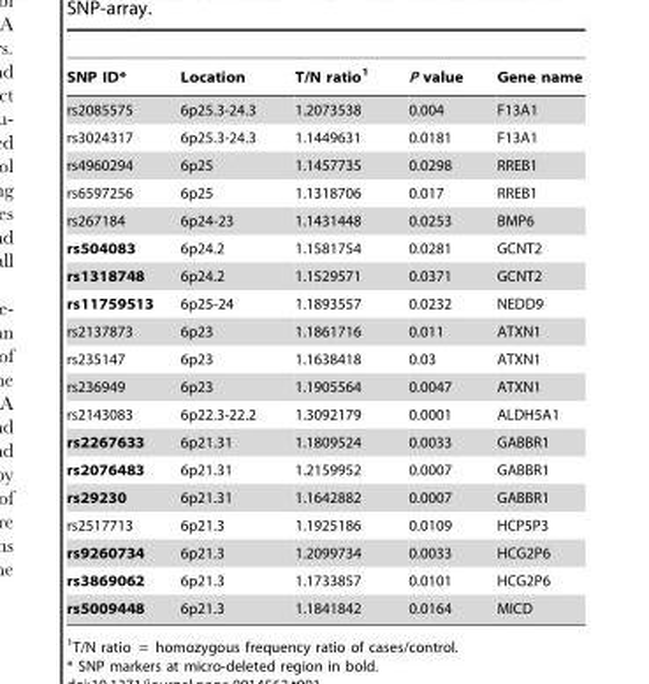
<table><thead><tr><td>SNP ID*</td><td>Location</td><td>T/N ratio<sup>1</sup></td><td>P value</td><td>Gene name</td></tr></thead><tbody><tr><td>rs2085575</td><td>6p25.3-24.3</td><td>1.2073538</td><td>0.004</td><td>F13A1</td></tr><tr><td>rs3024317</td><td>6p25.3-24.3</td><td>1.1449631</td><td>0.0181</td><td>F13A1</td></tr><tr><td>rs4960294</td><td>6p25</td><td>1.1457735</td><td>0.0298</td><td>RREB1</td></tr><tr><td>rs6597256</td><td>6p25</td><td>1.1318706</td><td>0.017</td><td>RREB1</td></tr><tr><td>rs267184</td><td>6p24-23</td><td>1.1431448</td><td>0.0253</td><td>BMP6</td></tr><tr><td>rs504083</td><td>6p24.2</td><td>1.1581754</td><td>0.0281</td><td>GCNT2</td></tr><tr><td>rs1318748</td><td>6p24.2</td><td>1.1529571</td><td>0.0371</td><td>GCNT2</td></tr><tr><td>rs11759513</td><td>6p25-24</td><td>1.1893557</td><td>0.0232</td><td>NEDD9</td></tr><tr><td>rs2137873</td><td>6p23</td><td>1.1861716</td><td>0.011</td><td>ATXN1</td></tr><tr><td>rs235147</td><td>6p23</td><td>1.1638418</td><td>0.03</td><td>ATXN1</td></tr><tr><td>rs236949</td><td>6p23</td><td>1.1905564</td><td>0.0047</td><td>ATXN1</td></tr><tr><td>rs2143083</td><td>6p22.3-22.2</td><td>1.3092179</td><td>0.0001</td><td>ALDH5A1</td></tr><tr><td>rs2267633</td><td>6p21.31</td><td>1.1809524</td><td>0.0033</td><td>GABBR1</td></tr><tr><td>rs2076483</td><td>6p21.31</td><td>1.2159952</td><td>0.0007</td><td>GABBR1</td></tr><tr><td>rs29230</td><td>6p21.31</td><td>1.1642882</td><td>0.0007</td><td>GABBR1</td></tr><tr><td>rs2517713</td><td>6p21.3</td><td>1.1925186</td><td>0.0109</td><td>HCP5P3</td></tr><tr><td>rs9260734</td><td>6p21.3</td><td>1.2099734</td><td>0.0033</td><td>HCG2P6</td></tr><tr><td>rs3869062</td><td>6p21.3</td><td>1.1733857</td><td>0.0101</td><td>HCG2P6</td></tr><tr><td>rs5009448</td><td>6p21.3</td><td>1.1841842</td><td>0.0164</td><td>MICD</td></tr></tbody></table>